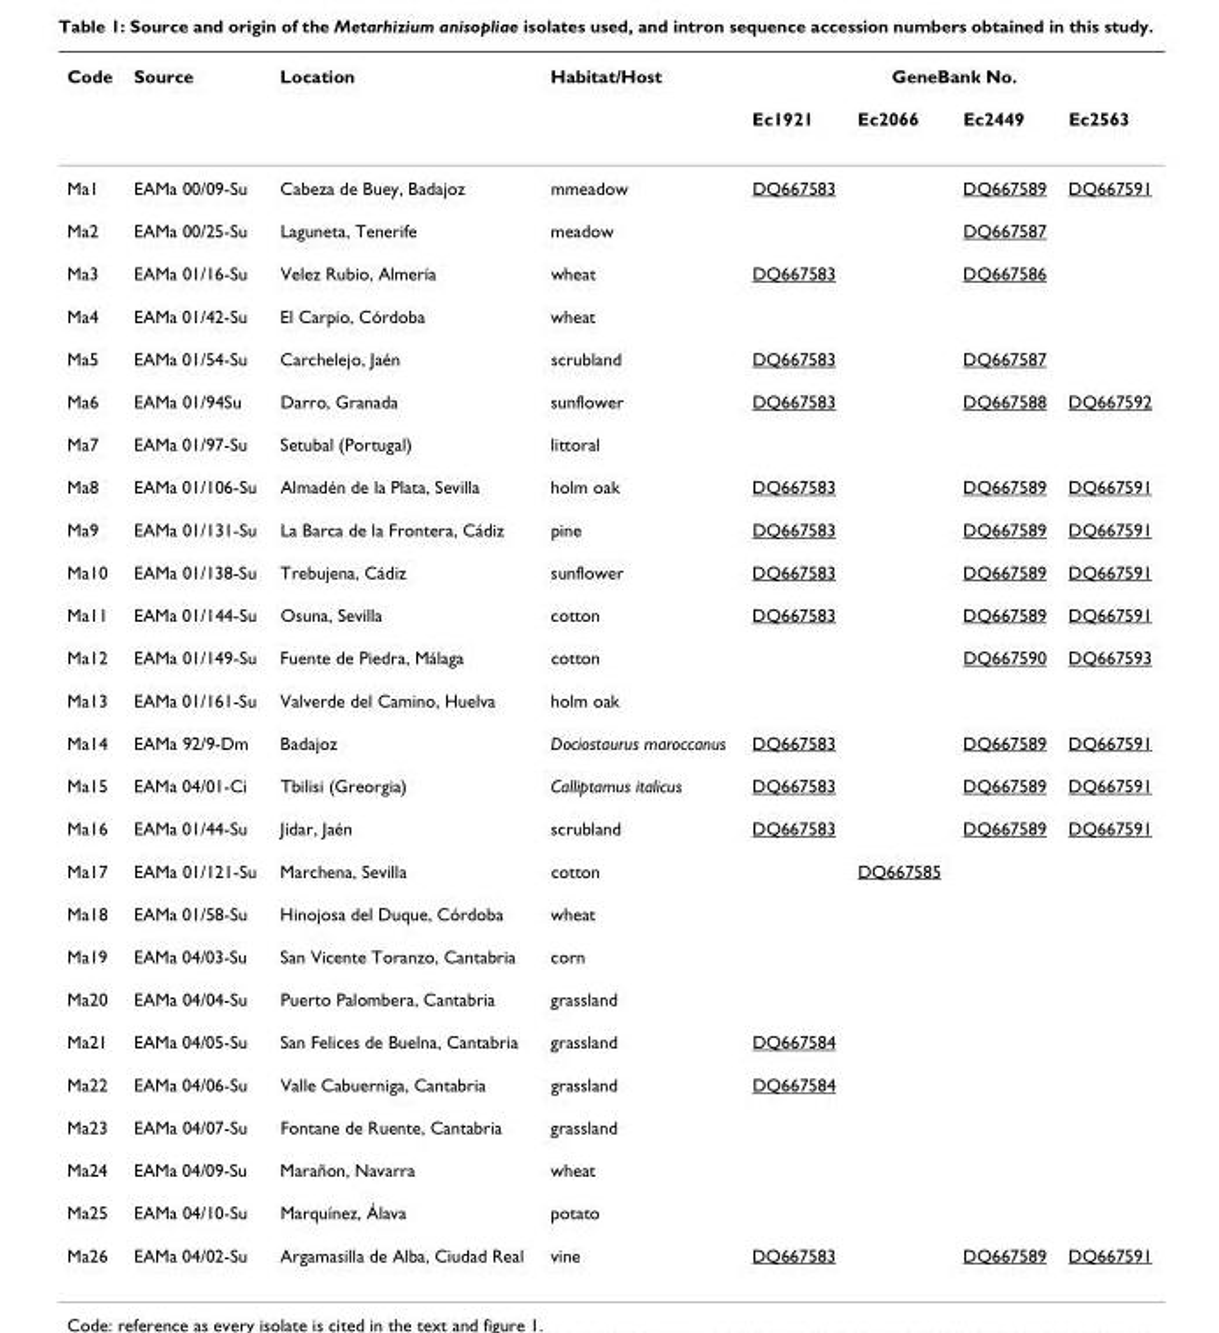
<table><thead><tr><td rowspan="2">Code</td><td rowspan="2">Source</td><td rowspan="2">Location</td><td rowspan="2">Habitat/Host</td><td colspan="4">GeneBank No.</td></tr><tr><td>Ec1921</td><td>Ec2066</td><td>Ec2449</td><td>Ec2563</td></tr></thead><tbody><tr><td>Ma1</td><td>EAMa 00/09-Su</td><td>Cabeza de Buey, Badajoz</td><td>mmeadow</td><td>DQ667583</td><td></td><td>DQ667589</td><td>DQ667591</td></tr><tr><td>Ma2</td><td>EAMa 00/25-Su</td><td>Laguneta, Tenerife</td><td>meadow</td><td></td><td></td><td>DQ667587</td><td></td></tr><tr><td>Ma3</td><td>EAMa 01/16-Su</td><td>Velez Rubio, Almería</td><td>wheat</td><td>DQ667583</td><td></td><td>DQ667586</td><td></td></tr><tr><td>Ma4</td><td>EAMa 01/42-Su</td><td>El Carpio, Córdoba</td><td>wheat</td><td></td><td></td><td></td><td></td></tr><tr><td>Ma5</td><td>EAMa 01/54-Su</td><td>Carchelejo, Jaén</td><td>scrubland</td><td>DQ667583</td><td></td><td>DQ667587</td><td></td></tr><tr><td>Ma6</td><td>EAMa 01/94Su</td><td>Darro, Granada</td><td>sunflower</td><td>DQ667583</td><td></td><td>DQ667588</td><td>DQ667592</td></tr><tr><td>Ma7</td><td>EAMa 01/97-Su</td><td>Setubal (Portugal)</td><td>littoral</td><td></td><td></td><td></td><td></td></tr><tr><td>Ma8</td><td>EAMa 01/106-Su</td><td>Almadén de la Plata, Sevilla</td><td>holm oak</td><td>DQ667583</td><td></td><td>DQ667589</td><td>DQ667591</td></tr><tr><td>Ma9</td><td>EAMa 01/131-Su</td><td>La Barca de la Frontera, Cádiz</td><td>pine</td><td>DQ667583</td><td></td><td>DQ667589</td><td>DQ667591</td></tr><tr><td>Ma10</td><td>EAMa 01/138-Su</td><td>Trebujena, Cádiz</td><td>sunflower</td><td>DQ667583</td><td></td><td>DQ667589</td><td>DQ667591</td></tr><tr><td>Ma11</td><td>EAMa 01/144-Su</td><td>Osuna, Sevilla</td><td>cotton</td><td>DQ667583</td><td></td><td>DQ667589</td><td>DQ667591</td></tr><tr><td>Ma12</td><td>EAMa 01/149-Su</td><td>Fuente de Piedra, Málaga</td><td>cotton</td><td></td><td></td><td>DQ667590</td><td>DQ667593</td></tr><tr><td>Ma13</td><td>EAMa 01/161-Su</td><td>Valverde del Camino, Huelva</td><td>holm oak</td><td></td><td></td><td></td><td></td></tr><tr><td>Ma14</td><td>EAMa 92/9-Dm</td><td>Badajoz</td><td>Dociostaurus maroccanus</td><td>DQ667583</td><td></td><td>DQ667589</td><td>DQ667591</td></tr><tr><td>Ma15</td><td>EAMa 04/01-Ci</td><td>Tbilisi (Greorgia)</td><td>Calliptamus italicus</td><td>DQ667583</td><td></td><td>DQ667589</td><td>DQ667591</td></tr><tr><td>Ma16</td><td>EAMa 01/44-Su</td><td>Jidar, Jaén</td><td>scrubland</td><td>DQ667583</td><td></td><td>DQ667589</td><td>DQ667591</td></tr><tr><td>Ma17</td><td>EAMa 01/121-Su</td><td>Marchena, Sevilla</td><td>cotton</td><td></td><td>DQ667585</td><td></td><td></td></tr><tr><td>Ma18</td><td>EAMa 01/58-Su</td><td>Hinojosa del Duque, Córdoba</td><td>wheat</td><td></td><td></td><td></td><td></td></tr><tr><td>Ma19</td><td>EAMa 04/03-Su</td><td>San Vicente Toranzo, Cantabria</td><td>corn</td><td></td><td></td><td></td><td></td></tr><tr><td>Ma20</td><td>EAMa 04/04-Su</td><td>Puerto Palombera, Cantabria</td><td>grassland</td><td></td><td></td><td></td><td></td></tr><tr><td>Ma21</td><td>EAMa 04/05-Su</td><td>San Felices de Buelna, Cantabria</td><td>grassland</td><td>DQ667584</td><td></td><td></td><td></td></tr><tr><td>Ma22</td><td>EAMa 04/06-Su</td><td>Valle Cabuerniga, Cantabria</td><td>grassland</td><td>DQ667584</td><td></td><td></td><td></td></tr><tr><td>Ma23</td><td>EAMa 04/07-Su</td><td>Fontane de Ruente, Cantabria</td><td>grassland</td><td></td><td></td><td></td><td></td></tr><tr><td>Ma24</td><td>EAMa 04/09-Su</td><td>Marañon, Navarra</td><td>wheat</td><td></td><td></td><td></td><td></td></tr><tr><td>Ma25</td><td>EAMa 04/10-Su</td><td>Marquínez, Álava</td><td>potato</td><td></td><td></td><td></td><td></td></tr><tr><td>Ma26</td><td>EAMa 04/02-Su</td><td>Argamasilla de Alba, Ciudad Real</td><td>vine</td><td>DQ667583</td><td></td><td>DQ667589</td><td>DQ667591</td></tr></tbody></table>